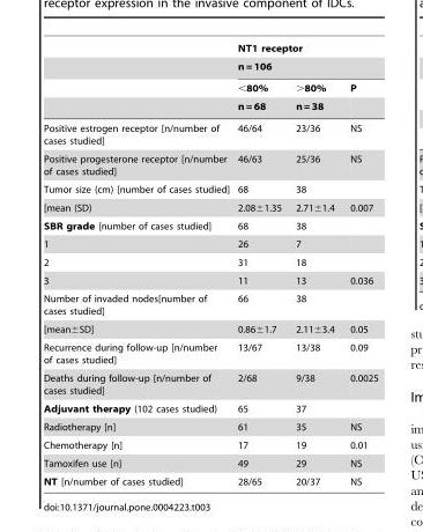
<table><thead><tr><td rowspan="4"></td><td rowspan="2" colspan="3">NT1 receptor n = 106</td></tr><tr></tr><tr><td rowspan="2">&lt;80% n = 68</td><td rowspan="2">&gt;80% n = 38</td><td rowspan="2">P</td></tr><tr></tr></thead><tbody><tr><td>Positive estrogen receptor [n/number of cases studied]</td><td>46/64</td><td>23/36</td><td>NS</td></tr><tr><td>Positive progesterone receptor [n/number of cases studied]</td><td>46/63</td><td>25/36</td><td>NS</td></tr><tr><td>Tumor size (cm) [number of cases studied]</td><td>68</td><td>38</td><td></td></tr><tr><td>[mean (SD)</td><td>2.08±1.35</td><td>2.71±1.4</td><td>0.007</td></tr><tr><td>SBR grade [number of cases studied]</td><td>68</td><td>38</td><td></td></tr><tr><td>1</td><td>26</td><td>7</td><td></td></tr><tr><td>2</td><td>31</td><td>18</td><td></td></tr><tr><td>3</td><td>11</td><td>13</td><td>0.036</td></tr><tr><td>Number of invaded nodes[number of cases studied]</td><td>66</td><td>38</td><td></td></tr><tr><td>[mean±SD]</td><td>0.86±1.7</td><td>2.11±3.4</td><td>0.05</td></tr><tr><td>Recurrence during follow-up [n/number of cases studied]</td><td>13/67</td><td>13/38</td><td>0.09</td></tr><tr><td>Deaths during follow-up [n/number of cases studied]</td><td>2/68</td><td>9/38</td><td>0.0025</td></tr><tr><td>Adjuvant therapy (102 cases studied)</td><td>65</td><td>37</td><td></td></tr><tr><td>Radiotherapy [n]</td><td>61</td><td>35</td><td>NS</td></tr><tr><td>Chemotherapy [n]</td><td>17</td><td>19</td><td>0.01</td></tr><tr><td>Tamoxifen use [n]</td><td>49</td><td>29</td><td>NS</td></tr><tr><td>NT [n/number of cases studied]</td><td>28/65</td><td>20/37</td><td>NS</td></tr></tbody></table>